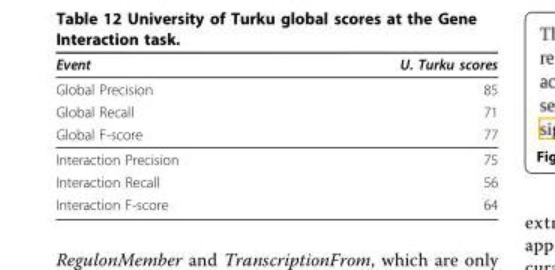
<table><thead><tr><td>Event</td><td>U. Turku scores</td></tr></thead><tbody><tr><td>Global Precision</td><td>85</td></tr><tr><td>Global Recall</td><td>71</td></tr><tr><td>Global F-score</td><td>77</td></tr><tr><td>Interaction Precision</td><td>75</td></tr><tr><td>Interaction Recall</td><td>56</td></tr><tr><td>Interaction F-score</td><td>64</td></tr></tbody></table>